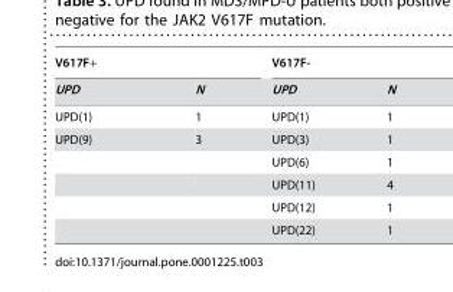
<table><thead><tr><td colspan="2">V617F+</td><td colspan="2">V617F-</td></tr><tr><td>UPD</td><td>N</td><td>UPD</td><td>N</td></tr></thead><tbody><tr><td>UPD(1)</td><td>1</td><td>UPD(1)</td><td>1</td></tr><tr><td rowspan="5">UPD(9)</td><td>3</td><td>UPD(3)</td><td>1</td></tr><tr><td></td><td>UPD(6)</td><td>1</td></tr><tr><td></td><td>UPD(11)</td><td>4</td></tr><tr><td></td><td>UPD(12)</td><td>1</td></tr><tr><td></td><td>UPD(22)</td><td>1</td></tr></tbody></table>